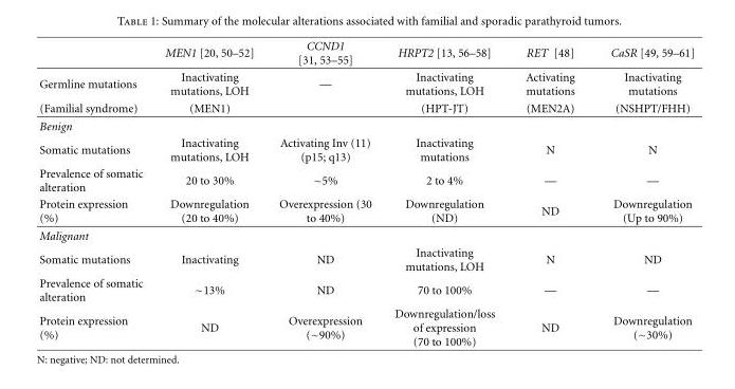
<table><thead><tr><td></td><td>MEN1 [20, 50–52]</td><td>CCND1 [31, 53–55]</td><td>HRPT2 [13, 56–58]</td><td>RET [48]</td><td>CaSR [49, 59–61]</td></tr></thead><tbody><tr><td>Germline mutations</td><td>Inactivating mutations, LOH</td><td>—</td><td>Inactivating mutations, LOH</td><td>Activating mutations</td><td>Inactivating mutations</td></tr><tr><td>(Familial syndrome)</td><td>(MEN1)</td><td></td><td>(HPT-JT)</td><td>(MEN2A)</td><td>(NSHPT/FHH)</td></tr><tr><td colspan="6">Benign</td></tr><tr><td>Somatic mutations</td><td>Inactivating mutations, LOH</td><td>Activating Inv (11) (p15; q13)</td><td>Inactivating mutations</td><td>N</td><td>N</td></tr><tr><td>Prevalence of somatic alteration</td><td>20 to 30%</td><td>∼5%</td><td>2 to 4%</td><td>—</td><td>—</td></tr><tr><td>Protein expression (%)</td><td>Downregulation (20 to 40%)</td><td>Overexpression (30 to 40%)</td><td>Downregulation (ND)</td><td>ND</td><td>Downregulation (Up to 90%)</td></tr><tr><td colspan="6">Malignant</td></tr><tr><td>Somatic mutations</td><td>Inactivating</td><td>ND</td><td>Inactivating mutations, LOH</td><td>N</td><td>ND</td></tr><tr><td>Prevalence of somatic alteration</td><td>∼13%</td><td>ND</td><td>70 to 100%</td><td>—</td><td>—</td></tr><tr><td>Protein expression (%)</td><td>ND</td><td>Overexpression (∼90%)</td><td>Downregulation/loss of expression (70 to 100%)</td><td>ND</td><td>Downregulation (∼30%)</td></tr></tbody></table>